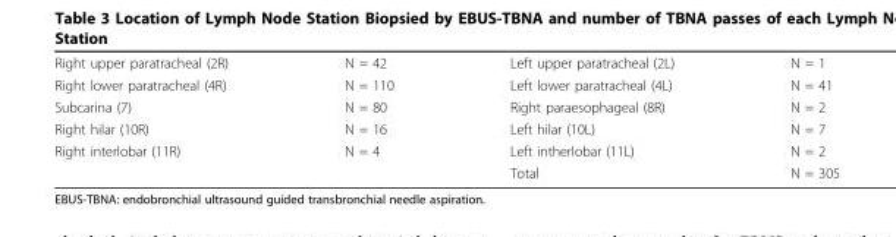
<table><tbody><tr><td>Right upper paratracheal (2R)</td><td>N = 42</td><td>Left upper paratracheal (2L)</td><td>N = 1</td></tr><tr><td>Right lower paratracheal (4R)</td><td>N = 110</td><td>Left lower paratracheal (4L)</td><td>N = 41</td></tr><tr><td>Subcarina (7)</td><td>N = 80</td><td>Right paraesophageal (8R)</td><td>N = 2</td></tr><tr><td>Right hilar (10R)</td><td>N = 16</td><td>Left hilar (10L)</td><td>N = 7</td></tr><tr><td rowspan="2">Right interlobar (11R)</td><td>N = 4</td><td>Left intherlobar (11L)</td><td>N = 2</td></tr><tr><td></td><td>Total</td><td>N = 305</td></tr></tbody></table>